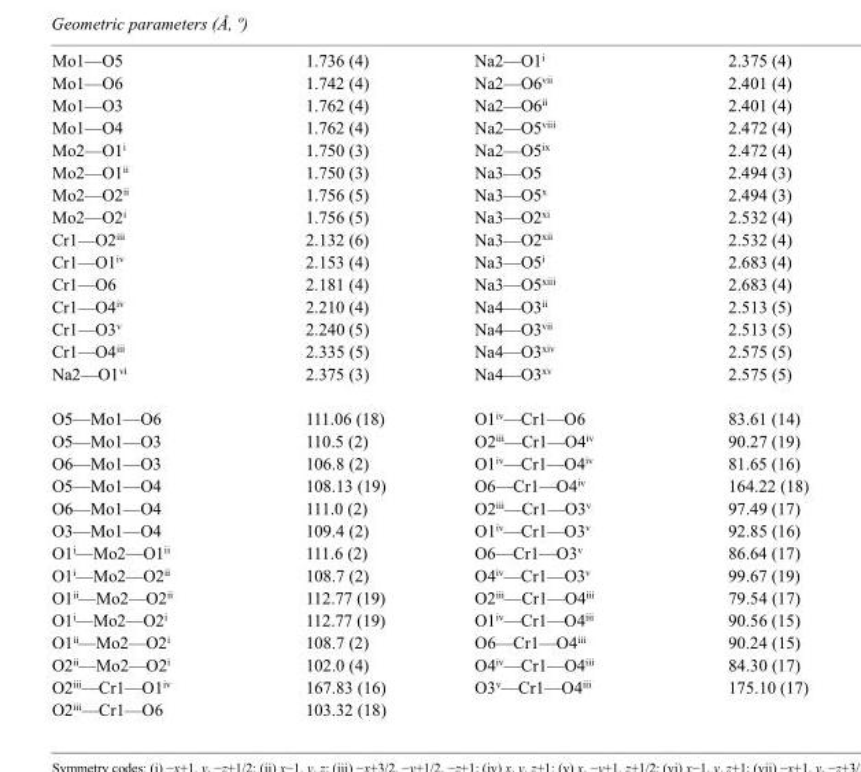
<table><tbody><tr><td>Mo1—O5</td><td>1.736 (4)</td><td>Na2—O1<sup>i</sup></td><td>2.375 (4)</td></tr><tr><td>Mo1—O6</td><td>1.742 (4)</td><td>Na2—O6<sup>vii</sup></td><td>2.401 (4)</td></tr><tr><td>Mo1—O3</td><td>1.762 (4)</td><td>Na2—O6<sup>ii</sup></td><td>2.401 (4)</td></tr><tr><td>Mo1—O4</td><td>1.762 (4)</td><td>Na2—O5<sup>viii</sup></td><td>2.472 (4)</td></tr><tr><td>Mo2—O1<sup>i</sup></td><td>1.750 (3)</td><td>Na2—O5<sup>ix</sup></td><td>2.472 (4)</td></tr><tr><td>Mo2—O1<sup>ii</sup></td><td>1.750 (3)</td><td>Na3—O5</td><td>2.494 (3)</td></tr><tr><td>Mo2—O2<sup>ii</sup></td><td>1.756 (5)</td><td>Na3—O5<sup>x</sup></td><td>2.494 (3)</td></tr><tr><td>Mo2—O2<sup>i</sup></td><td>1.756 (5)</td><td>Na3—O2<sup>xi</sup></td><td>2.532 (4)</td></tr><tr><td>Cr1—O2<sup>iii</sup></td><td>2.132 (6)</td><td>Na3—O2<sup>xii</sup></td><td>2.532 (4)</td></tr><tr><td>Cr1—O1<sup>iv</sup></td><td>2.153 (4)</td><td>Na3—O5<sup>i</sup></td><td>2.683 (4)</td></tr><tr><td>Cr1—O6</td><td>2.181 (4)</td><td>Na3—O5<sup>xiii</sup></td><td>2.683 (4)</td></tr><tr><td>Cr1—O4<sup>iv</sup></td><td>2.210 (4)</td><td>Na4—O3<sup>ii</sup></td><td>2.513 (5)</td></tr><tr><td>Cr1—O3<sup>v</sup></td><td>2.240 (5)</td><td>Na4—O3<sup>vii</sup></td><td>2.513 (5)</td></tr><tr><td>Cr1—O4<sup>iii</sup></td><td>2.335 (5)</td><td>Na4—O3<sup>xiv</sup></td><td>2.575 (5)</td></tr><tr><td>Na2—O1<sup>vi</sup></td><td>2.375 (3)</td><td>Na4—O3<sup>xv</sup></td><td>2.575 (5)</td></tr><tr><td>O5—Mo1—O6</td><td>111.06 (18)</td><td>O1<sup>iv</sup>—Cr1—O6</td><td>83.61 (14)</td></tr><tr><td>O5—Mo1—O3</td><td>110.5 (2)</td><td>O2<sup>iii</sup>—Cr1—O4<sup>iv</sup></td><td>90.27 (19)</td></tr><tr><td>O6—Mo1—O3</td><td>106.8 (2)</td><td>O1<sup>iv</sup>—Cr1—O4<sup>iv</sup></td><td>81.65 (16)</td></tr><tr><td>O5—Mo1—O4</td><td>108.13 (19)</td><td>O6—Cr1—O4<sup>iv</sup></td><td>164.22 (18)</td></tr><tr><td>O6—Mo1—O4</td><td>111.0 (2)</td><td>O2<sup>iii</sup>—Cr1—O3<sup>v</sup></td><td>97.49 (17)</td></tr><tr><td>O3—Mo1—O4</td><td>109.4 (2)</td><td>O1<sup>iv</sup>—Cr1—O3<sup>v</sup></td><td>92.85 (16)</td></tr><tr><td>O1<sup>i</sup>—Mo2—O1<sup>ii</sup></td><td>111.6 (2)</td><td>O6—Cr1—O3<sup>v</sup></td><td>86.64 (17)</td></tr><tr><td>O1<sup>i</sup>—Mo2—O2<sup>ii</sup></td><td>108.7 (2)</td><td>O4<sup>iv</sup>—Cr1—O3<sup>v</sup></td><td>99.67 (19)</td></tr><tr><td>O1<sup>ii</sup>—Mo2—O2<sup>ii</sup></td><td>112.77 (19)</td><td>O2<sup>iii</sup>—Cr1—O4<sup>iii</sup></td><td>79.54 (17)</td></tr><tr><td>O1<sup>i</sup>—Mo2—O2<sup>i</sup></td><td>112.77 (19)</td><td>O1<sup>iv</sup>—Cr1—O4<sup>iii</sup></td><td>90.56 (15)</td></tr><tr><td>O1<sup>ii</sup>—Mo2—O2<sup>i</sup></td><td>108.7 (2)</td><td>O6—Cr1—O4<sup>iii</sup></td><td>90.24 (15)</td></tr><tr><td>O2<sup>ii</sup>—Mo2—O2<sup>i</sup></td><td>102.0 (4)</td><td>O4<sup>iv</sup>—Cr1—O4<sup>iii</sup></td><td>84.30 (17)</td></tr><tr><td>O2<sup>iii</sup>—Cr1—O1<sup>iv</sup></td><td>167.83 (16)</td><td>O3<sup>v</sup>—Cr1—O4<sup>iii</sup></td><td>175.10 (17)</td></tr><tr><td>O2<sup>iii</sup>—Cr1—O6</td><td>103.32 (18)</td><td></td><td></td></tr></tbody></table>